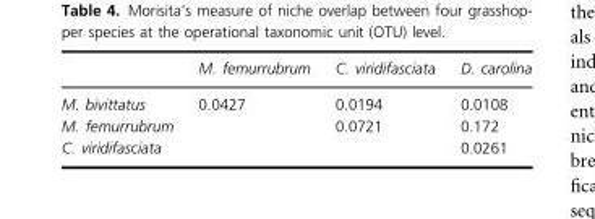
<table><thead><tr><td></td><td>M. femurrubrum</td><td>C. viridifasciata</td><td>D. carolina</td></tr></thead><tbody><tr><td>M. bivittatus</td><td>0.0427</td><td>0.0194</td><td>0.0108</td></tr><tr><td>M. femurrubrum</td><td></td><td>0.0721</td><td>0.172</td></tr><tr><td>C. viridifasciata</td><td></td><td></td><td>0.0261</td></tr></tbody></table>